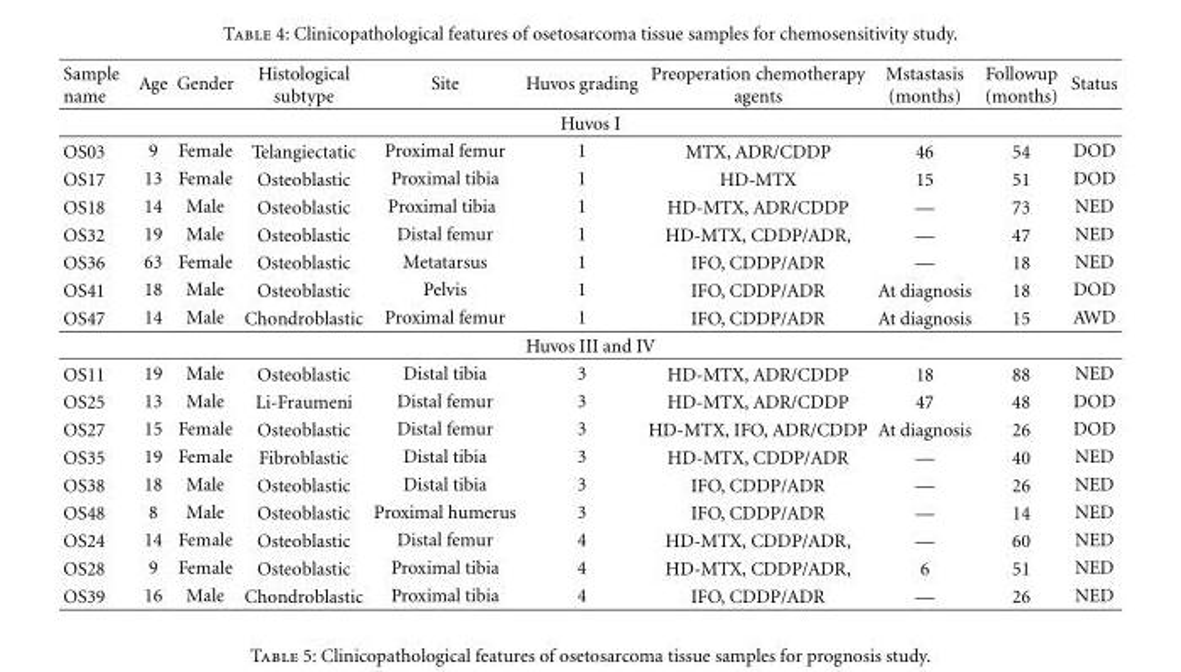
<table><thead><tr><td>Sample name</td><td>Age</td><td>Gender</td><td>Histological subtype</td><td>Site</td><td>Huvos grading</td><td>Preoperation chemotherapy agents</td><td>Mstastasis (months)</td><td>Followup (months)</td><td>Status</td></tr></thead><tbody><tr><td colspan="10">Huvos I</td></tr><tr><td>OS03</td><td>9</td><td>Female</td><td>Telangiectatic</td><td>Proximal femur</td><td>1</td><td>MTX, ADR/CDDP</td><td>46</td><td>54</td><td>DOD</td></tr><tr><td>OS17</td><td>13</td><td>Female</td><td>Osteoblastic</td><td>Proximal tibia</td><td>1</td><td>HD-MTX</td><td>15</td><td>51</td><td>DOD</td></tr><tr><td>OS18</td><td>14</td><td>Male</td><td>Osteoblastic</td><td>Proximal tibia</td><td>1</td><td>HD-MTX, ADR/CDDP</td><td>—</td><td>73</td><td>NED</td></tr><tr><td>OS32</td><td>19</td><td>Male</td><td>Osteoblastic</td><td>Distal femur</td><td>1</td><td>HD-MTX, CDDP/ADR,</td><td>—</td><td>47</td><td>NED</td></tr><tr><td>OS36</td><td>63</td><td>Female</td><td>Osteoblastic</td><td>Metatarsus</td><td>1</td><td>IFO, CDDP/ADR</td><td>—</td><td>18</td><td>NED</td></tr><tr><td>OS41</td><td>18</td><td>Male</td><td>Osteoblastic</td><td>Pelvis</td><td>1</td><td>IFO, CDDP/ADR</td><td>At diagnosis</td><td>18</td><td>DOD</td></tr><tr><td>OS47</td><td>14</td><td>Male</td><td>Chondroblastic</td><td>Proximal femur</td><td>1</td><td>IFO, CDDP/ADR</td><td>At diagnosis</td><td>15</td><td>AWD</td></tr><tr><td colspan="10">Huvos III and IV</td></tr><tr><td>OS11</td><td>19</td><td>Male</td><td>Osteoblastic</td><td>Distal tibia</td><td>3</td><td>HD-MTX, ADR/CDDP</td><td>18</td><td>88</td><td>NED</td></tr><tr><td>OS25</td><td>13</td><td>Male</td><td>Li-Fraumeni</td><td>Distal femur</td><td>3</td><td>HD-MTX, ADR/CDDP</td><td>47</td><td>48</td><td>DOD</td></tr><tr><td>OS27</td><td>15</td><td>Female</td><td>Osteoblastic</td><td>Distal femur</td><td>3</td><td>HD-MTX, IFO, ADR/CDDP</td><td>At diagnosis</td><td>26</td><td>DOD</td></tr><tr><td>OS35</td><td>19</td><td>Female</td><td>Fibroblastic</td><td>Distal tibia</td><td>3</td><td>HD-MTX, CDDP/ADR</td><td>—</td><td>40</td><td>NED</td></tr><tr><td>OS38</td><td>18</td><td>Male</td><td>Osteoblastic</td><td>Distal tibia</td><td>3</td><td>IFO, CDDP/ADR</td><td>—</td><td>26</td><td>NED</td></tr><tr><td>OS48</td><td>8</td><td>Male</td><td>Osteoblastic</td><td>Proximal humerus</td><td>3</td><td>IFO, CDDP/ADR</td><td>—</td><td>14</td><td>NED</td></tr><tr><td>OS24</td><td>14</td><td>Female</td><td>Osteoblastic</td><td>Distal femur</td><td>4</td><td>HD-MTX, CDDP/ADR,</td><td>—</td><td>60</td><td>NED</td></tr><tr><td>OS28</td><td>9</td><td>Female</td><td>Osteoblastic</td><td>Proximal tibia</td><td>4</td><td>HD-MTX, CDDP/ADR,</td><td>6</td><td>51</td><td>NED</td></tr><tr><td>OS39</td><td>16</td><td>Male</td><td>Chondroblastic</td><td>Proximal tibia</td><td>4</td><td>IFO, CDDP/ADR</td><td>—</td><td>26</td><td>NED</td></tr></tbody></table>